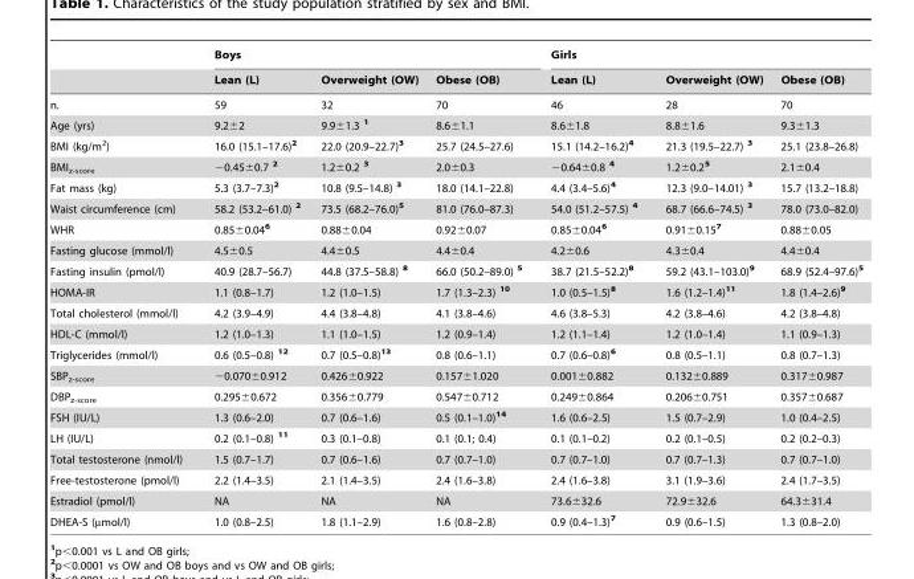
<table><thead><tr><td rowspan="2"></td><td colspan="3">Boys</td><td colspan="3">Girls</td></tr><tr><td>Lean (L)</td><td>Overweight (OW)</td><td>Obese (OB)</td><td>Lean (L)</td><td>Overweight (OW)</td><td>Obese (OB)</td></tr></thead><tbody><tr><td>n.</td><td>59</td><td>32</td><td>70</td><td>46</td><td>28</td><td>70</td></tr><tr><td>Age (yrs)</td><td>9.2±2</td><td>9.9±1.3 1</td><td>8.6±1.1</td><td>8.6±1.8</td><td>8.8±1.6</td><td>9.3±1.3</td></tr><tr><td>BMI (kg/m<sup>2</sup>)</td><td>16.0 (15.1–17.6)<sup>2</sup></td><td>22.0 (20.9–22.7)<sup>3</sup></td><td>25.7 (24.5–27.6)</td><td>15.1 (14.2–16.2)<sup>4</sup></td><td>21.3 (19.5–22.7) 3</td><td>25.1 (23.8–26.8)</td></tr><tr><td>BMI<sub>z-score</sub></td><td>−0.45±0.7 2</td><td>1.2±0.2 3</td><td>2.0±0.3</td><td>−0.64±0.8 4</td><td>1.2±0.2<sup>5</sup></td><td>2.1±0.4</td></tr><tr><td>Fat mass (kg)</td><td>5.3 (3.7–7.3)<sup>2</sup></td><td>10.8 (9.5–14.8) 3</td><td>18.0 (14.1–22.8)</td><td>4.4 (3.4–5.6)<sup>4</sup></td><td>12.3 (9.0–14.01) 3</td><td>15.7 (13.2–18.8)</td></tr><tr><td>Waist circumference (cm)</td><td>58.2 (53.2–61.0) 2</td><td>73.5 (68.2–76.0)<sup>5</sup></td><td>81.0 (76.0–87.3)</td><td>54.0 (51.2–57.5) 4</td><td>68.7 (66.6–74.5) 3</td><td>78.0 (73.0–82.0)</td></tr><tr><td>WHR</td><td>0.85±0.04<sup>6</sup></td><td>0.88±0.04</td><td>0.92±0.07</td><td>0.85±0.04<sup>6</sup></td><td>0.91±0.15<sup>7</sup></td><td>0.88±0.05</td></tr><tr><td>Fasting glucose (mmol/l)</td><td>4.5±0.5</td><td>4.4±0.5</td><td>4.4±0.4</td><td>4.2±0.6</td><td>4.3±0.4</td><td>4.4±0.4</td></tr><tr><td>Fasting insulin (pmol/l)</td><td>40.9 (28.7–56.7)</td><td>44.8 (37.5–58.8) 8</td><td>66.0 (50.2–89.0) 5</td><td>38.7 (21.5–52.2)<sup>8</sup></td><td>59.2 (43.1–103.0)<sup>9</sup></td><td>68.9 (52.4–97.6)<sup>5</sup></td></tr><tr><td>HOMA-IR</td><td>1.1 (0.8–1.7)</td><td>1.2 (1.0–1.5)</td><td>1.7 (1.3–2.3) 10</td><td>1.0 (0.5–1.5)<sup>8</sup></td><td>1.6 (1.2–1.4)<sup>11</sup></td><td>1.8 (1.4–2.6)<sup>9</sup></td></tr><tr><td>Total cholesterol (mmol/l)</td><td>4.2 (3.9–4.9)</td><td>4.4 (3.8–4.8)</td><td>4.1 (3.8–4.6)</td><td>4.6 (3.8–5.3)</td><td>4.2 (3.8–4.6)</td><td>4.2 (3.8–4.8)</td></tr><tr><td>HDL-C (mmol/l)</td><td>1.2 (1.0–1.3)</td><td>1.1 (1.0–1.5)</td><td>1.2 (0.9–1.4)</td><td>1.2 (1.1–1.4)</td><td>1.2 (1.0–1.4)</td><td>1.1 (0.9–1.3)</td></tr><tr><td>Triglycerides (mmol/l)</td><td>0.6 (0.5–0.8) 12</td><td>0.7 (0.5–0.8)<sup>13</sup></td><td>0.8 (0.6–1.1)</td><td>0.7 (0.6–0.8)<sup>6</sup></td><td>0.8 (0.5–1.1)</td><td>0.8 (0.7–1.3)</td></tr><tr><td>SBP<sub>z-score</sub></td><td>−0.070±0.912</td><td>0.426±0.922</td><td>0.157±1.020</td><td>0.001±0.882</td><td>0.132±0.889</td><td>0.317±0.987</td></tr><tr><td>DBP<sub>z-score</sub></td><td>0.295±0.672</td><td>0.356±0.779</td><td>0.547±0.712</td><td>0.249±0.864</td><td>0.206±0.751</td><td>0.357±0.687</td></tr><tr><td>FSH (IU/L)</td><td>1.3 (0.6–2.0)</td><td>0.7 (0.6–1.6)</td><td>0.5 (0.1–1.0)<sup>14</sup></td><td>1.6 (0.6–2.5)</td><td>1.5 (0.7–2.9)</td><td>1.0 (0.4–2.5)</td></tr><tr><td>LH (IU/L)</td><td>0.2 (0.1–0.8) 11</td><td>0.3 (0.1–0.8)</td><td>0.1 (0.1; 0.4)</td><td>0.1 (0.1–0.2)</td><td>0.2 (0.1–0.5)</td><td>0.2 (0.2–0.3)</td></tr><tr><td>Total testosterone (nmol/l)</td><td>1.5 (0.7–1.7)</td><td>0.7 (0.6–1.6)</td><td>0.7 (0.7–1.0)</td><td>0.7 (0.7–1.0)</td><td>0.7 (0.7–1.3)</td><td>0.7 (0.7–1.0)</td></tr><tr><td>Free-testosterone (pmol/l)</td><td>2.2 (1.4–3.5)</td><td>2.1 (1.4–3.5)</td><td>2.4 (1.6–3.8)</td><td>2.4 (1.6–3.8)</td><td>3.1 (1.9–3.6)</td><td>2.4 (1.7–3.5)</td></tr><tr><td>Estradiol (pmol/l)</td><td>NA</td><td>NA</td><td>NA</td><td>73.6±32.6</td><td>72.9±32.6</td><td>64.3±31.4</td></tr><tr><td>DHEA-S (µmol/l)</td><td>1.0 (0.8–2.5)</td><td>1.8 (1.1–2.9)</td><td>1.6 (0.8–2.8)</td><td>0.9 (0.4–1.3)<sup>7</sup></td><td>0.9 (0.6–1.5)</td><td>1.3 (0.8–2.0)</td></tr></tbody></table>